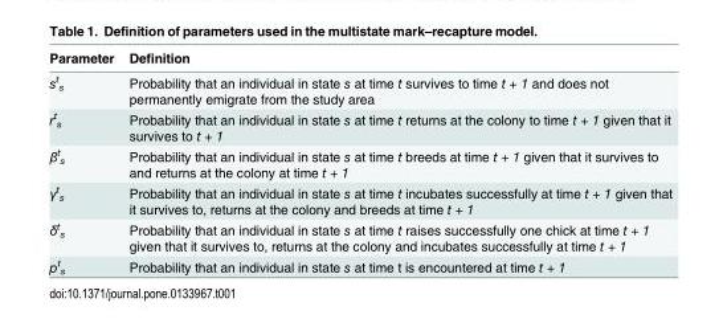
<table><thead><tr><td>Parameter</td><td>Definition</td></tr></thead><tbody><tr><td>s<sup>t</sup> <sub>s</sub></td><td>Probability that an individual in state s at time t survives to time t + 1 and does not permanently emigrate from the study area</td></tr><tr><td>r<sup>t</sup> <sub>s</sub></td><td>Probability that an individual in state s at time t returns at the colony to time t + 1 given that it survives to t + 1</td></tr><tr><td>β<sup>t</sup> <sub>s</sub></td><td>Probability that an individual in state s at time t breeds at time t + 1 given that it survives to and returns at the colony at time t + 1</td></tr><tr><td>γ<sup>t</sup> <sub>s</sub></td><td>Probability that an individual in state s at time t incubates successfully at time t + 1 given that it survives to, returns at the colony and breeds at time t + 1</td></tr><tr><td>δ<sup>t</sup> <sub>s</sub></td><td>Probability that an individual in state s at time t raises successfully one chick at time t + 1 given that it survives to, returns at the colony and incubates successfully at time t + 1</td></tr><tr><td>p<sup>t</sup> <sub>s</sub></td><td>Probability that an individual in state s at time t is encountered at time t + 1</td></tr></tbody></table>